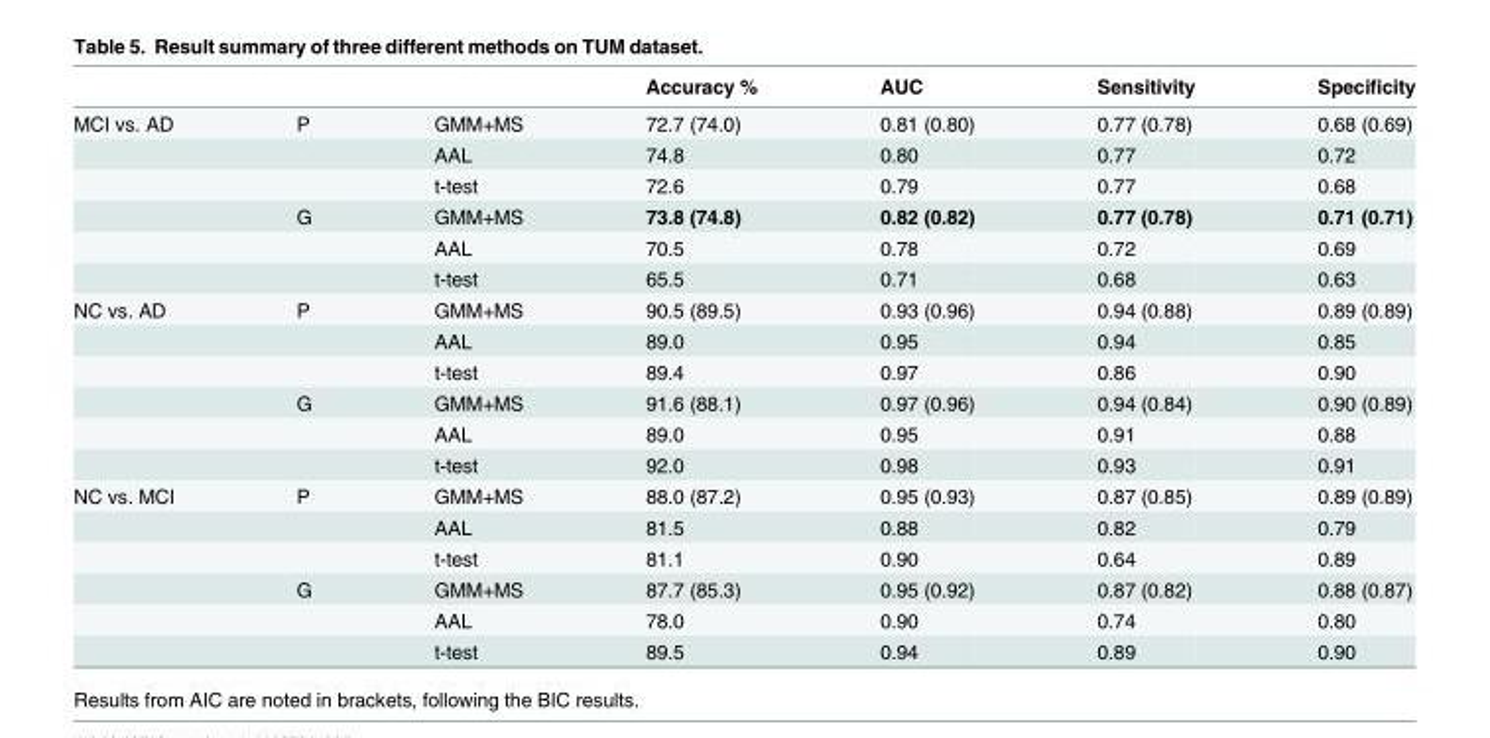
<table><thead><tr><td></td><td></td><td></td><td>Accuracy %</td><td>AUC</td><td>Sensitivity</td><td>Specificity</td></tr></thead><tbody><tr><td rowspan="6">MCI vs. AD</td><td>P</td><td>GMM+MS</td><td>72.7 (74.0)</td><td>0.81 (0.80)</td><td>0.77 (0.78)</td><td>0.68 (0.69)</td></tr><tr><td></td><td>AAL</td><td>74.8</td><td>0.80</td><td>0.77</td><td>0.72</td></tr><tr><td></td><td>t-test</td><td>72.6</td><td>0.79</td><td>0.77</td><td>0.68</td></tr><tr><td>G</td><td>GMM+MS</td><td>73.8 (74.8)</td><td>0.82 (0.82)</td><td>0.77 (0.78)</td><td>0.71 (0.71)</td></tr><tr><td></td><td>AAL</td><td>70.5</td><td>0.78</td><td>0.72</td><td>0.69</td></tr><tr><td></td><td>t-test</td><td>65.5</td><td>0.71</td><td>0.68</td><td>0.63</td></tr><tr><td rowspan="6">NC vs. AD</td><td>P</td><td>GMM+MS</td><td>90.5 (89.5)</td><td>0.93 (0.96)</td><td>0.94 (0.88)</td><td>0.89 (0.89)</td></tr><tr><td></td><td>AAL</td><td>89.0</td><td>0.95</td><td>0.94</td><td>0.85</td></tr><tr><td></td><td>t-test</td><td>89.4</td><td>0.97</td><td>0.86</td><td>0.90</td></tr><tr><td>G</td><td>GMM+MS</td><td>91.6 (88.1)</td><td>0.97 (0.96)</td><td>0.94 (0.84)</td><td>0.90 (0.89)</td></tr><tr><td></td><td>AAL</td><td>89.0</td><td>0.95</td><td>0.91</td><td>0.88</td></tr><tr><td></td><td>t-test</td><td>92.0</td><td>0.98</td><td>0.93</td><td>0.91</td></tr><tr><td rowspan="6">NC vs. MCI</td><td>P</td><td>GMM+MS</td><td>88.0 (87.2)</td><td>0.95 (0.93)</td><td>0.87 (0.85)</td><td>0.89 (0.89)</td></tr><tr><td></td><td>AAL</td><td>81.5</td><td>0.88</td><td>0.82</td><td>0.79</td></tr><tr><td></td><td>t-test</td><td>81.1</td><td>0.90</td><td>0.64</td><td>0.89</td></tr><tr><td>G</td><td>GMM+MS</td><td>87.7 (85.3)</td><td>0.95 (0.92)</td><td>0.87 (0.82)</td><td>0.88 (0.87)</td></tr><tr><td></td><td>AAL</td><td>78.0</td><td>0.90</td><td>0.74</td><td>0.80</td></tr><tr><td></td><td>t-test</td><td>89.5</td><td>0.94</td><td>0.89</td><td>0.90</td></tr></tbody></table>